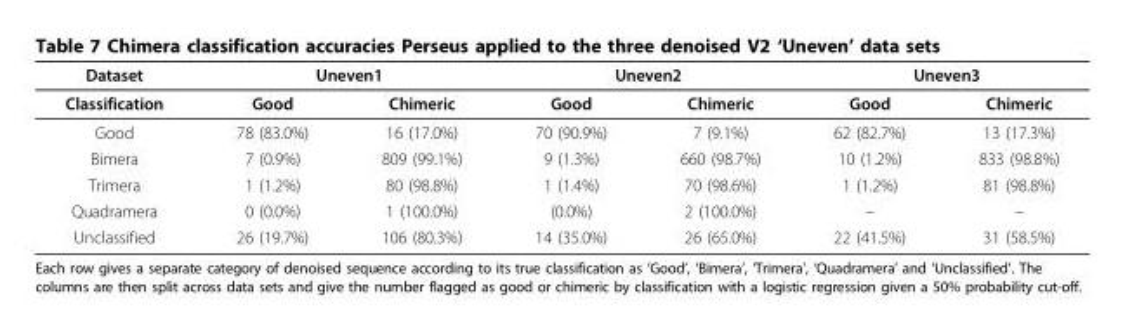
<table><thead><tr><td rowspan="2">Dataset Classification</td><td colspan="2">Uneven1</td><td colspan="2">Uneven2</td><td colspan="2">Uneven3</td></tr><tr><td>Good</td><td>Chimeric</td><td>Good</td><td>Chimeric</td><td>Good</td><td>Chimeric</td></tr></thead><tbody><tr><td>Good</td><td>78 (83.0%)</td><td>16 (17.0%)</td><td>70 (90.9%)</td><td>7 (9.1%)</td><td>62 (82.7%)</td><td>13 (17.3%)</td></tr><tr><td>Bimera</td><td>7 (0.9%)</td><td>809 (99.1%)</td><td>9 (1.3%)</td><td>660 (98.7%)</td><td>10 (1.2%)</td><td>833 (98.8%)</td></tr><tr><td>Trimera</td><td>1 (1.2%)</td><td>80 (98.8%)</td><td>1 (1.4%)</td><td>70 (98.6%)</td><td>1 (1.2%)</td><td>81 (98.8%)</td></tr><tr><td>Quadramera</td><td>0 (0.0%)</td><td>1 (100.0%)</td><td>(0.0%)</td><td>2 (100.0%)</td><td>–</td><td>–</td></tr><tr><td>Unclassified</td><td>26 (19.7%)</td><td>106 (80.3%)</td><td>14 (35.0%)</td><td>26 (65.0%)</td><td>22 (41.5%)</td><td>31 (58.5%)</td></tr></tbody></table>